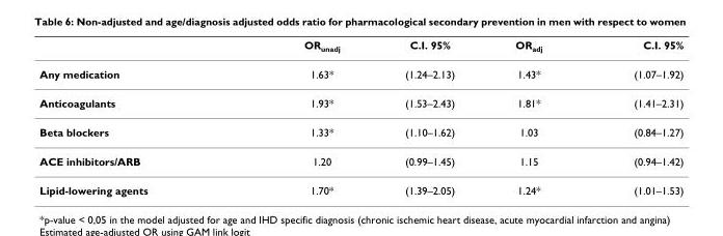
<table><thead><tr><td></td><td>OR<sub>unadj</sub></td><td>C.I. 95%</td><td>OR<sub>adj</sub></td><td>C.I. 95%</td></tr></thead><tbody><tr><td>Any medication</td><td>1.63*</td><td>(1.24–2.13)</td><td>1.43*</td><td>(1.07–1.92)</td></tr><tr><td>Anticoagulants</td><td>1.93*</td><td>(1.53–2.43)</td><td>1.81*</td><td>(1.41–2.31)</td></tr><tr><td>Beta blockers</td><td>1.33*</td><td>(1.10–1.62)</td><td>1.03</td><td>(0.84–1.27)</td></tr><tr><td>ACE inhibitors/ARB</td><td>1.20</td><td>(0.99–1.45)</td><td>1.15</td><td>(0.94–1.42)</td></tr><tr><td>Lipid-lowering agents</td><td>1.70*</td><td>(1.39–2.05)</td><td>1.24*</td><td>(1.01–1.53)</td></tr></tbody></table>